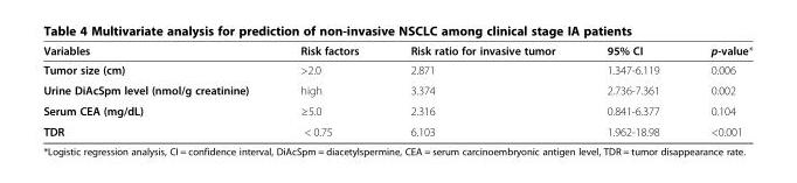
<table><thead><tr><td>Variables</td><td>Risk factors</td><td>Risk ratio for invasive tumor</td><td>95% CI</td><td>p-value*</td></tr></thead><tbody><tr><td>Tumor size (cm)</td><td>&gt;2.0</td><td>2.871</td><td>1.347-6.119</td><td>0.006</td></tr><tr><td>Urine DiAcSpm level (nmol/g creatinine)</td><td>high</td><td>3.374</td><td>2.736-7.361</td><td>0.002</td></tr><tr><td>Serum CEA (mg/dL)</td><td>≥5.0</td><td>2.316</td><td>0.841-6.377</td><td>0.104</td></tr><tr><td>TDR</td><td>&lt; 0.75</td><td>6.103</td><td>1.962-18.98</td><td>&lt;0.001</td></tr></tbody></table>